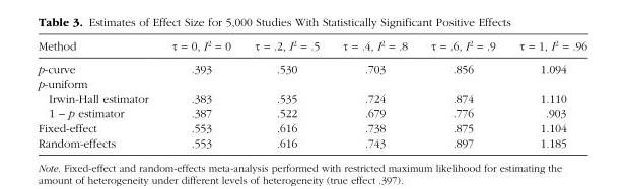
<table><thead><tr><td>Method</td><td>τ = 0, I<sup>2</sup> = 0</td><td>τ = .2, I<sup>2</sup> = .5</td><td>τ = .4, I<sup>2</sup> = .8</td><td>τ = .6, I<sup>2</sup> = .9</td><td>τ = 1, I<sup>2</sup> = .96</td></tr></thead><tbody><tr><td>p-curve</td><td>.393</td><td>.530</td><td>.703</td><td>.856</td><td>1.094</td></tr><tr><td colspan="6">p-uniform</td></tr><tr><td>Irwin-Hall estimator</td><td>.383</td><td>.535</td><td>.724</td><td>.874</td><td>1.110</td></tr><tr><td>1 − p estimator</td><td>.387</td><td>.522</td><td>.679</td><td>.776</td><td>.903</td></tr><tr><td>Fixed-effect</td><td>.553</td><td>.616</td><td>.738</td><td>.875</td><td>1.104</td></tr><tr><td>Random-effects</td><td>.553</td><td>.616</td><td>.743</td><td>.897</td><td>1.185</td></tr></tbody></table>